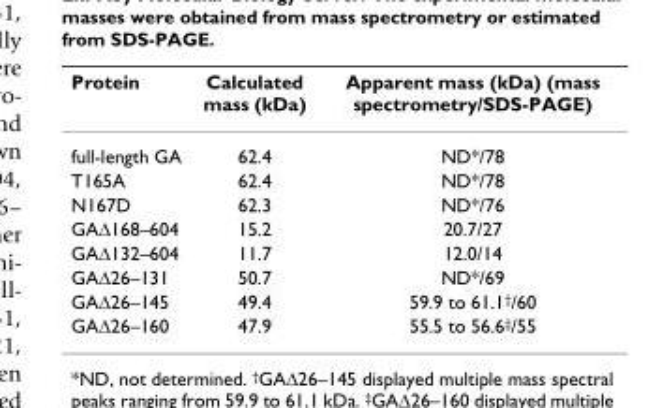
<table><thead><tr><td>Protein</td><td>Calculated mass (kDa)</td><td>Apparent mass (kDa) (mass spectrometry/SDS-PAGE)</td></tr></thead><tbody><tr><td>full-length GA</td><td>62.4</td><td>ND*/78</td></tr><tr><td>T165A</td><td>62.4</td><td>ND*/78</td></tr><tr><td>N167D</td><td>62.3</td><td>ND*/76</td></tr><tr><td>GA∆168–604</td><td>15.2</td><td>20.7/27</td></tr><tr><td>GA∆132–604</td><td>11.7</td><td>12.0/14</td></tr><tr><td>GA∆26–131</td><td>50.7</td><td>ND*/69</td></tr><tr><td>GA∆26–145</td><td>49.4</td><td>59.9 to 61.1<sup>†</sup>/60</td></tr><tr><td>GA∆26–160</td><td>47.9</td><td>55.5 to 56.6<sup>‡</sup>/55</td></tr></tbody></table>